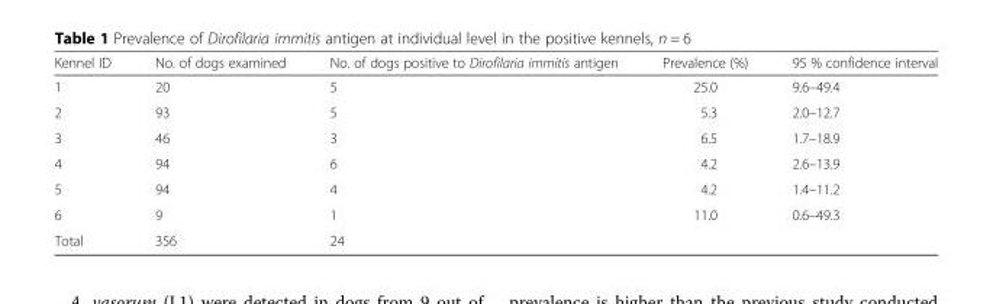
<table><thead><tr><td>Kennel ID</td><td>No. of dogs examined</td><td>No. of dogs positive to Dirofilaria immitis antigen</td><td>Prevalence (%)</td><td>95 % confidence interval</td></tr></thead><tbody><tr><td>1</td><td>20</td><td>5</td><td>25.0</td><td>9.6–49.4</td></tr><tr><td>2</td><td>93</td><td>5</td><td>5.3</td><td>2.0–12.7</td></tr><tr><td>3</td><td>46</td><td>3</td><td>6.5</td><td>1.7–18.9</td></tr><tr><td>4</td><td>94</td><td>6</td><td>4.2</td><td>2.6–13.9</td></tr><tr><td>5</td><td>94</td><td>4</td><td>4.2</td><td>1.4–11.2</td></tr><tr><td>6</td><td>9</td><td>1</td><td>11.0</td><td>0.6–49.3</td></tr><tr><td>Total</td><td>356</td><td>24</td><td></td><td></td></tr></tbody></table>